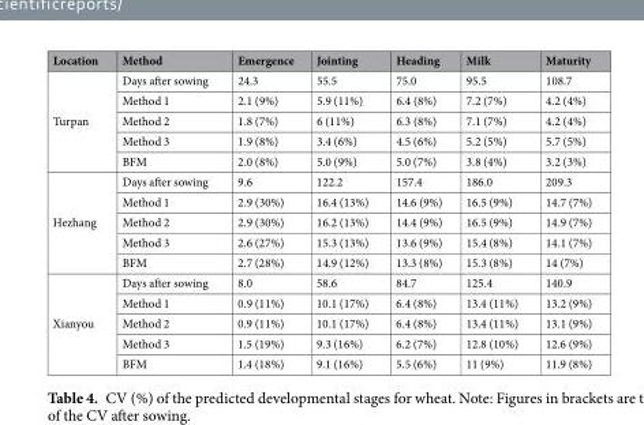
<table><thead><tr><td>Location</td><td>Method</td><td>Emergence</td><td>Jointing</td><td>Heading</td><td>Milk</td><td>Maturity</td></tr></thead><tbody><tr><td rowspan="5">Turpan</td><td>Days after sowing</td><td>24.3</td><td>55.5</td><td>75.0</td><td>95.5</td><td>108.7</td></tr><tr><td>Method 1</td><td>2.1 (9%)</td><td>5.9 (11%)</td><td>6.4 (8%)</td><td>7.2 (7%)</td><td>4.2 (4%)</td></tr><tr><td>Method 2</td><td>1.8 (7%)</td><td>6 (11%)</td><td>6.3 (8%)</td><td>7.1 (7%)</td><td>4.2 (4%)</td></tr><tr><td>Method 3</td><td>1.9 (8%)</td><td>3.4 (6%)</td><td>4.5 (6%)</td><td>5.2 (5%)</td><td>5.7 (5%)</td></tr><tr><td>BFM</td><td>2.0 (8%)</td><td>5.0 (9%)</td><td>5.0 (7%)</td><td>3.8 (4%)</td><td>3.2 (3%)</td></tr><tr><td rowspan="5">Hezhang</td><td>Days after sowing</td><td>9.6</td><td>122.2</td><td>157.4</td><td>186.0</td><td>209.3</td></tr><tr><td>Method 1</td><td>2.9 (30%)</td><td>16.4 (13%)</td><td>14.6 (9%)</td><td>16.5 (9%)</td><td>14.7 (7%)</td></tr><tr><td>Method 2</td><td>2.9 (30%)</td><td>16.2 (13%)</td><td>14.4 (9%)</td><td>16.5 (9%)</td><td>14.9 (7%)</td></tr><tr><td>Method 3</td><td>2.6 (27%)</td><td>15.3 (13%)</td><td>13.6 (9%)</td><td>15.4 (8%)</td><td>14.1 (7%)</td></tr><tr><td>BFM</td><td>2.7 (28%)</td><td>14.9 (12%)</td><td>13.3 (8%)</td><td>15.3 (8%)</td><td>14 (7%)</td></tr><tr><td rowspan="5">Xianyou</td><td>Days after sowing</td><td>8.0</td><td>58.6</td><td>84.7</td><td>125.4</td><td>140.9</td></tr><tr><td>Method 1</td><td>0.9 (11%)</td><td>10.1 (17%)</td><td>6.4 (8%)</td><td>13.4 (11%)</td><td>13.2 (9%)</td></tr><tr><td>Method 2</td><td>0.9 (11%)</td><td>10.1 (17%)</td><td>6.4 (8%)</td><td>13.4 (11%)</td><td>13.1 (9%)</td></tr><tr><td>Method 3</td><td>1.5 (19%)</td><td>9.3 (16%)</td><td>6.2 (7%)</td><td>12.8 (10%)</td><td>12.6 (9%)</td></tr><tr><td>BFM</td><td>1.4 (18%)</td><td>9.1 (16%)</td><td>5.5 (6%)</td><td>11 (9%)</td><td>11.9 (8%)</td></tr></tbody></table>